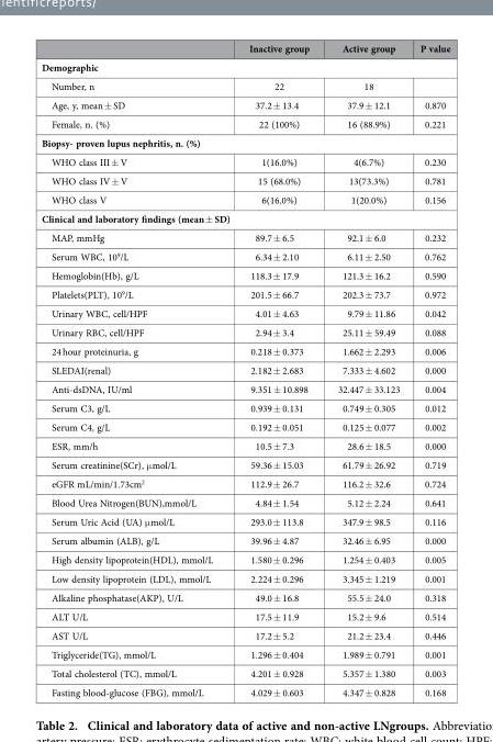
<table><thead><tr><td></td><td>Inactive group</td><td>Active group</td><td>P value</td></tr></thead><tbody><tr><td colspan="4">Demographic</td></tr><tr><td>Number, n</td><td>22</td><td>18</td><td></td></tr><tr><td>Age, y, mean ± SD</td><td>37.2 ± 13.4</td><td>37.9 ± 12.1</td><td>0.870</td></tr><tr><td>Female, n. (%)</td><td>22 (100%)</td><td>16 (88.9%)</td><td>0.221</td></tr><tr><td colspan="4">Biopsy- proven lupus nephritis, n. (%)</td></tr><tr><td>WHO class III ± V</td><td>1(16.0%)</td><td>4(6.7%)</td><td>0.230</td></tr><tr><td>WHO class IV ± V</td><td>15 (68.0%)</td><td>13(73.3%)</td><td>0.781</td></tr><tr><td>WHO class V</td><td>6(16.0%)</td><td>1(20.0%)</td><td>0.156</td></tr><tr><td colspan="4">Clinical and laboratory findings (mean ± SD)</td></tr><tr><td>MAP, mmHg</td><td>89.7 ± 6.5</td><td>92.1 ± 6.0</td><td>0.232</td></tr><tr><td>Serum WBC, 10<sup>9</sup>/L</td><td>6.34 ± 2.10</td><td>6.11 ± 2.50</td><td>0.762</td></tr><tr><td>Hemoglobin(Hb), g/L</td><td>118.3 ± 17.9</td><td>121.3 ± 16.2</td><td>0.590</td></tr><tr><td>Platelets(PLT), 10<sup>9</sup>/L</td><td>201.5 ± 66.7</td><td>202.3 ± 73.7</td><td>0.972</td></tr><tr><td>Urinary WBC, cell/HPF</td><td>4.01 ± 4.63</td><td>9.79 ± 11.86</td><td>0.042</td></tr><tr><td>Urinary RBC, cell/HPF</td><td>2.94 ± 3.4</td><td>25.11 ± 59.49</td><td>0.088</td></tr><tr><td>24 hour proteinuria, g</td><td>0.218 ± 0.373</td><td>1.662 ± 2.293</td><td>0.006</td></tr><tr><td>SLEDAI(renal)</td><td>2.182 ± 2.683</td><td>7.333 ± 4.602</td><td>0.000</td></tr><tr><td>Anti-dsDNA, IU/ml</td><td>9.351 ± 10.898</td><td>32.447 ± 33.123</td><td>0.004</td></tr><tr><td>Serum C3, g/L</td><td>0.939 ± 0.131</td><td>0.749 ± 0.305</td><td>0.012</td></tr><tr><td>Serum C4, g/L</td><td>0.192 ± 0.051</td><td>0.125 ± 0.077</td><td>0.002</td></tr><tr><td>ESR, mm/h</td><td>10.5 ± 7.3</td><td>28.6 ± 18.5</td><td>0.000</td></tr><tr><td>Serum creatinine(SCr), μ mol/L</td><td>59.36 ± 15.03</td><td>61.79 ± 26.92</td><td>0.719</td></tr><tr><td>eGFR mL/min/1.73cm<sup>2</sup></td><td>112.9 ± 26.7</td><td>116.2 ± 32.6</td><td>0.724</td></tr><tr><td>Blood Urea Nitrogen(BUN),mmol/L</td><td>4.84 ± 1.54</td><td>5.12 ± 2.24</td><td>0.641</td></tr><tr><td>Serum Uric Acid (UA) μ mol/L</td><td>293.0 ± 113.8</td><td>347.9 ± 98.5</td><td>0.116</td></tr><tr><td>Serum albumin (ALB), g/L</td><td>39.96 ± 4.87</td><td>32.46 ± 6.95</td><td>0.000</td></tr><tr><td>High density lipoprotein(HDL), mmol/L</td><td>1.580 ± 0.296</td><td>1.254 ± 0.403</td><td>0.005</td></tr><tr><td>Low density lipoprotein (LDL), mmol/L</td><td>2.224 ± 0.296</td><td>3.345 ± 1.219</td><td>0.001</td></tr><tr><td>Alkaline phosphatase(AKP), U/L</td><td>49.0 ± 16.8</td><td>55.5 ± 24.0</td><td>0.318</td></tr><tr><td>ALT U/L</td><td>17.5 ± 11.9</td><td>15.2 ± 9.6</td><td>0.514</td></tr><tr><td>AST U/L</td><td>17.2 ± 5.2</td><td>21.2 ± 23.4</td><td>0.446</td></tr><tr><td>Triglyceride(TG), mmol/L</td><td>1.296 ± 0.404</td><td>1.989 ± 0.791</td><td>0.001</td></tr><tr><td>Total cholesterol (TC), mmol/L</td><td>4.201 ± 0.928</td><td>5.357 ± 1.380</td><td>0.003</td></tr><tr><td>Fasting blood-glucose (FBG), mmol/L</td><td>4.029 ± 0.603</td><td>4.347 ± 0.828</td><td>0.168</td></tr></tbody></table>